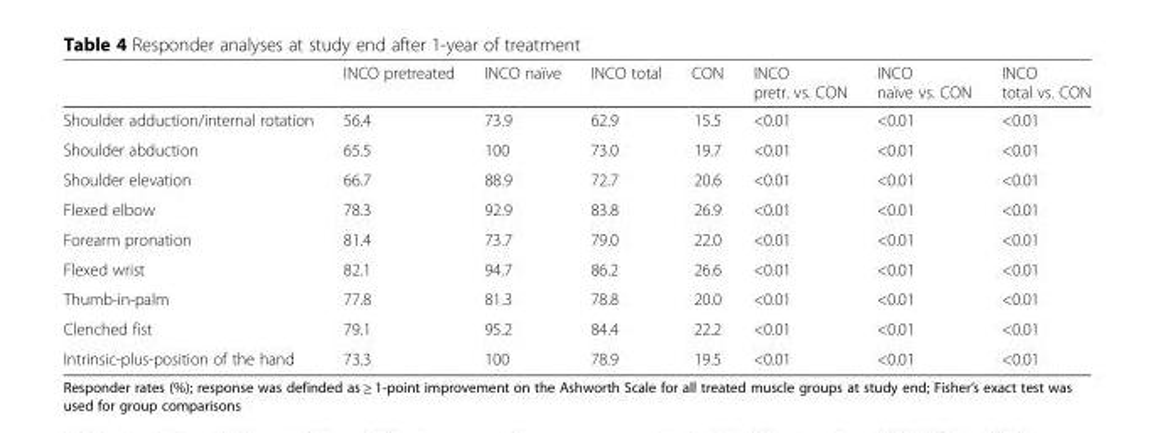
<table><thead><tr><td></td><td>INCO pretreated</td><td>INCO naïve</td><td>INCO total</td><td>CON</td><td>INCO pretr. vs. CON</td><td>INCO naïve vs. CON</td><td>INCO total vs. CON</td></tr></thead><tbody><tr><td>Shoulder adduction/internal rotation</td><td>56.4</td><td>73.9</td><td>62.9</td><td>15.5</td><td>&lt;0.01</td><td>&lt;0.01</td><td>&lt;0.01</td></tr><tr><td>Shoulder abduction</td><td>65.5</td><td>100</td><td>73.0</td><td>19.7</td><td>&lt;0.01</td><td>&lt;0.01</td><td>&lt;0.01</td></tr><tr><td>Shoulder elevation</td><td>66.7</td><td>88.9</td><td>72.7</td><td>20.6</td><td>&lt;0.01</td><td>&lt;0.01</td><td>&lt;0.01</td></tr><tr><td>Flexed elbow</td><td>78.3</td><td>92.9</td><td>83.8</td><td>26.9</td><td>&lt;0.01</td><td>&lt;0.01</td><td>&lt;0.01</td></tr><tr><td>Forearm pronation</td><td>81.4</td><td>73.7</td><td>79.0</td><td>22.0</td><td>&lt;0.01</td><td>&lt;0.01</td><td>&lt;0.01</td></tr><tr><td>Flexed wrist</td><td>82.1</td><td>94.7</td><td>86.2</td><td>26.6</td><td>&lt;0.01</td><td>&lt;0.01</td><td>&lt;0.01</td></tr><tr><td>Thumb-in-palm</td><td>77.8</td><td>81.3</td><td>78.8</td><td>20.0</td><td>&lt;0.01</td><td>&lt;0.01</td><td>&lt;0.01</td></tr><tr><td>Clenched fist</td><td>79.1</td><td>95.2</td><td>84.4</td><td>22.2</td><td>&lt;0.01</td><td>&lt;0.01</td><td>&lt;0.01</td></tr><tr><td>Intrinsic-plus-position of the hand</td><td>73.3</td><td>100</td><td>78.9</td><td>19.5</td><td>&lt;0.01</td><td>&lt;0.01</td><td>&lt;0.01</td></tr></tbody></table>